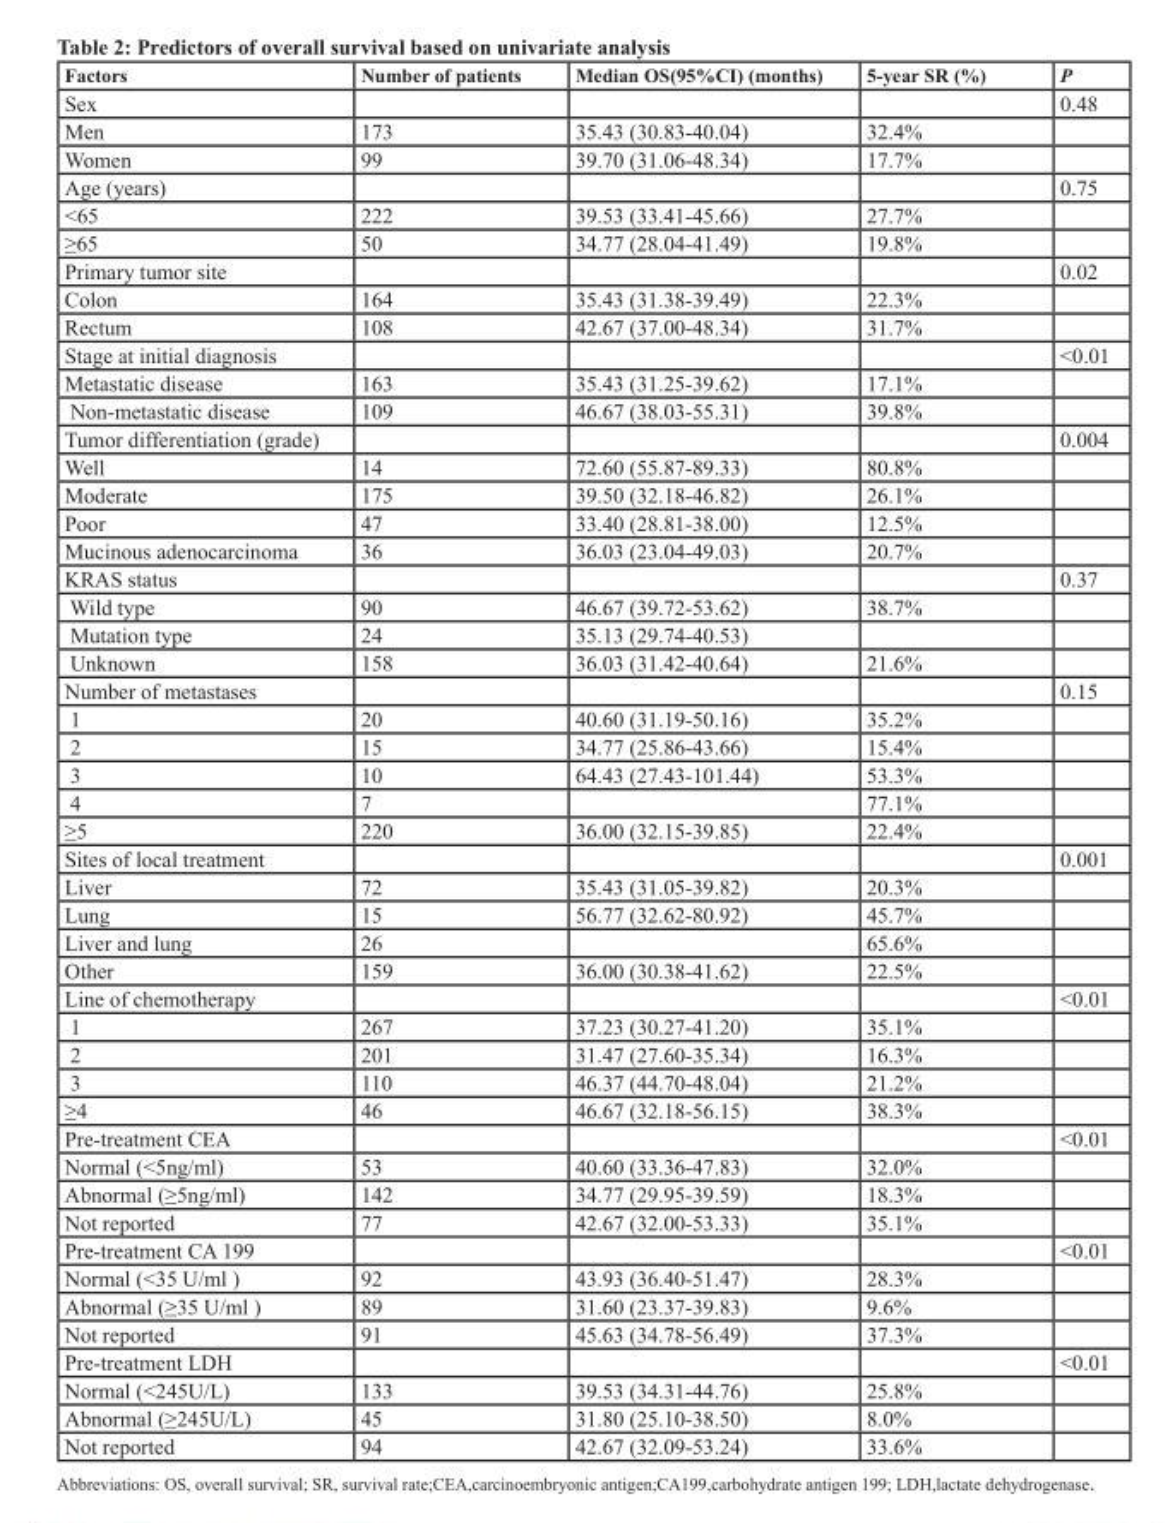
<table><thead><tr><td>Factors</td><td>Number of patients</td><td>Median OS(95%CI) (months)</td><td>5-year SR (%)</td><td>P</td></tr></thead><tbody><tr><td>Sex</td><td></td><td></td><td></td><td>0.48</td></tr><tr><td>Men</td><td>173</td><td>35.43 (30.83-40.04)</td><td>32.4%</td><td></td></tr><tr><td>Women</td><td>99</td><td>39.70 (31.06-48.34)</td><td>17.7%</td><td></td></tr><tr><td>Age (years)</td><td></td><td></td><td></td><td>0.75</td></tr><tr><td>&lt;65</td><td>222</td><td>39.53 (33.41-45.66)</td><td>27.7%</td><td></td></tr><tr><td>≥65</td><td>50</td><td>34.77 (28.04-41.49)</td><td>19.8%</td><td></td></tr><tr><td>Primary tumor site</td><td></td><td></td><td></td><td>0.02</td></tr><tr><td>Colon</td><td>164</td><td>35.43 (31.38-39.49)</td><td>22.3%</td><td></td></tr><tr><td>Rectum</td><td>108</td><td>42.67 (37.00-48.34)</td><td>31.7%</td><td></td></tr><tr><td>Stage at initial diagnosis</td><td></td><td></td><td></td><td>&lt;0.01</td></tr><tr><td>Metastatic disease</td><td>163</td><td>35.43 (31.25-39.62)</td><td>17.1%</td><td></td></tr><tr><td>Non-metastatic disease</td><td>109</td><td>46.67 (38.03-55.31)</td><td>39.8%</td><td></td></tr><tr><td>Tumor differentiation (grade)</td><td></td><td></td><td></td><td>0.004</td></tr><tr><td>Well</td><td>14</td><td>72.60 (55.87-89.33)</td><td>80.8%</td><td></td></tr><tr><td>Moderate</td><td>175</td><td>39.50 (32.18-46.82)</td><td>26.1%</td><td></td></tr><tr><td>Poor</td><td>47</td><td>33.40 (28.81-38.00)</td><td>12.5%</td><td></td></tr><tr><td>Mucinous adenocarcinoma</td><td>36</td><td>36.03 (23.04-49.03)</td><td>20.7%</td><td></td></tr><tr><td>KRAS status</td><td></td><td></td><td></td><td>0.37</td></tr><tr><td>Wild type</td><td>90</td><td>46.67 (39.72-53.62)</td><td>38.7%</td><td></td></tr><tr><td>Mutation type</td><td>24</td><td>35.13 (29.74-40.53)</td><td></td><td></td></tr><tr><td>Unknown</td><td>158</td><td>36.03 (31.42-40.64)</td><td>21.6%</td><td></td></tr><tr><td>Number of metastases</td><td></td><td></td><td></td><td>0.15</td></tr><tr><td>1</td><td>20</td><td>40.60 (31.19-50.16)</td><td>35.2%</td><td></td></tr><tr><td>2</td><td>15</td><td>34.77 (25.86-43.66)</td><td>15.4%</td><td></td></tr><tr><td>3</td><td>10</td><td>64.43 (27.43-101.44)</td><td>53.3%</td><td></td></tr><tr><td>4</td><td>7</td><td></td><td>77.1%</td><td></td></tr><tr><td>≥5</td><td>220</td><td>36.00 (32.15-39.85)</td><td>22.4%</td><td></td></tr><tr><td>Sites of local treatment</td><td></td><td></td><td></td><td>0.001</td></tr><tr><td>Liver</td><td>72</td><td>35.43 (31.05-39.82)</td><td>20.3%</td><td></td></tr><tr><td>Lung</td><td>15</td><td>56.77 (32.62-80.92)</td><td>45.7%</td><td></td></tr><tr><td>Liver and lung</td><td>26</td><td></td><td>65.6%</td><td></td></tr><tr><td>Other</td><td>159</td><td>36.00 (30.38-41.62)</td><td>22.5%</td><td></td></tr><tr><td>Line of chemotherapy</td><td></td><td></td><td></td><td>&lt;0.01</td></tr><tr><td>1</td><td>267</td><td>37.23 (30.27-41.20)</td><td>35.1%</td><td></td></tr><tr><td>2</td><td>201</td><td>31.47 (27.60-35.34)</td><td>16.3%</td><td></td></tr><tr><td>3</td><td>110</td><td>46.37 (44.70-48.04)</td><td>21.2%</td><td></td></tr><tr><td>≥4</td><td>46</td><td>46.67 (32.18-56.15)</td><td>38.3%</td><td></td></tr><tr><td>Pre-treatment CEA</td><td></td><td></td><td></td><td>&lt;0.01</td></tr><tr><td>Normal (&lt;5ng/ml)</td><td>53</td><td>40.60 (33.36-47.83)</td><td>32.0%</td><td></td></tr><tr><td>Abnormal (≥5ng/ml)</td><td>142</td><td>34.77 (29.95-39.59)</td><td>18.3%</td><td></td></tr><tr><td>Not reported</td><td>77</td><td>42.67 (32.00-53.33)</td><td>35.1%</td><td></td></tr><tr><td>Pre-treatment CA 199</td><td></td><td></td><td></td><td>&lt;0.01</td></tr><tr><td>Normal (&lt;35 U/ml )</td><td>92</td><td>43.93 (36.40-51.47)</td><td>28.3%</td><td></td></tr><tr><td>Abnormal (≥35 U/ml )</td><td>89</td><td>31.60 (23.37-39.83)</td><td>9.6%</td><td></td></tr><tr><td>Not reported</td><td>91</td><td>45.63 (34.78-56.49)</td><td>37.3%</td><td></td></tr><tr><td>Pre-treatment LDH</td><td></td><td></td><td></td><td>&lt;0.01</td></tr><tr><td>Normal (&lt;245U/L)</td><td>133</td><td>39.53 (34.31-44.76)</td><td>25.8%</td><td></td></tr><tr><td>Abnormal (≥245U/L)</td><td>45</td><td>31.80 (25.10-38.50)</td><td>8.0%</td><td></td></tr><tr><td>Not reported</td><td>94</td><td>42.67 (32.09-53.24)</td><td>33.6%</td><td></td></tr></tbody></table>